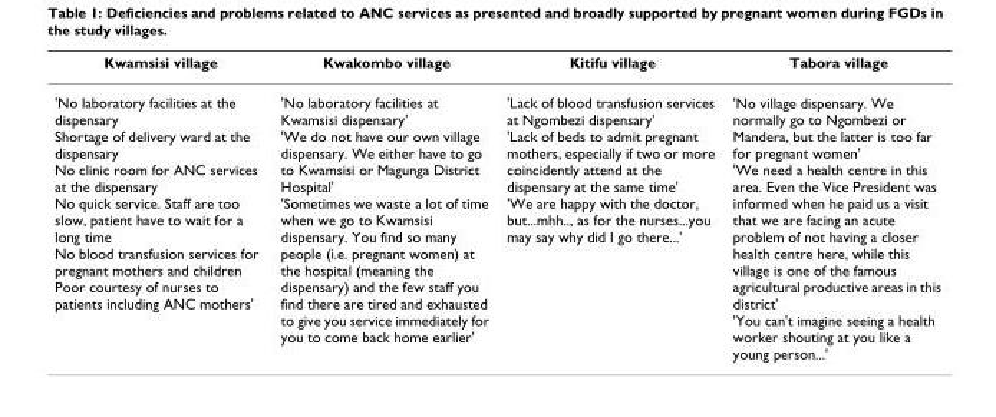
<table><thead><tr><td>Kwamsisi village</td><td>Kwakombo village</td><td>Kitifu village</td><td>Tabora village</td></tr></thead><tbody><tr><td>&#x27;No laboratory facilities at the dispensary Shortage of delivery ward at the dispensary No clinic room for ANC services at the dispensary No quick service. Staff are too slow, patient have to wait for a long time No blood transfusion services for pregnant mothers and children Poor courtesy of nurses to patients including ANC mothers&#x27;</td><td>&#x27;No laboratory facilities at Kwamsisi dispensary&#x27; &#x27;We do not have our own village dispensary. We either have to go to Kwamsisi or Magunga District Hospital&#x27; &#x27;Sometimes we waste a lot of time when we go to Kwamsisi dispensary. You find so many people (i.e. pregnant women) at the hospital (meaning the dispensary) and the few staff you find there are tired and exhausted to give you service immediately for you to come back home earlier&#x27;</td><td>&#x27;Lack of blood transfusion services at Ngombezi dispensary&#x27; &#x27;Lack of beds to admit pregnant mothers, especially if two or more coincidently attend at the dispensary at the same time&#x27; &#x27;We are happy with the doctor, but...mhh.., as for the nurses...you may say why did I go there...&#x27;</td><td>&#x27;No village dispensary. We normally go to Ngombezi or Mandera, but the latter is too far for pregnant women&#x27; &#x27;We need a health centre in this area. Even the Vice President was informed when he paid us a visit that we are facing an acute problem of not having a closer health centre here, while this village is one of the famous agricultural productive areas in this district&#x27; &#x27;You can&#x27;t imagine seeing a health worker shouting at you like a young person...&#x27;</td></tr></tbody></table>